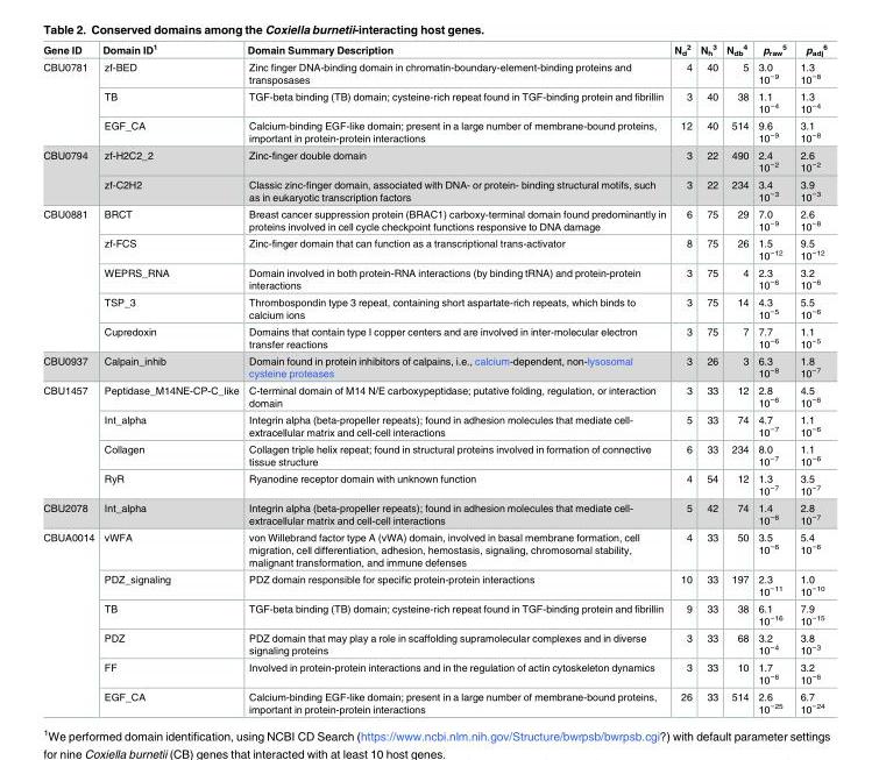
<table><thead><tr><td>Gene ID</td><td>Domain ID<sup>1</sup></td><td>Domain Summary Description</td><td>N<sub>d</sub> <sup>2</sup></td><td>N<sub>h</sub> <sup>3</sup></td><td>N<sub>db</sub> <sup>4</sup></td><td>p<sub>raw</sub> <sup>5</sup></td><td>p<sub>adj</sub> <sup>6</sup></td></tr></thead><tbody><tr><td rowspan="3">CBU0781</td><td>zf-BED</td><td>Zinc finger DNA-binding domain in chromatin-boundary-element-binding proteins and transposases</td><td>4</td><td>40</td><td>5</td><td>3.0 10<sup>−9</sup></td><td>1.3 10<sup>−8</sup></td></tr><tr><td>TB</td><td>TGF-beta binding (TB) domain; cysteine-rich repeat found in TGF-binding protein and fibrillin</td><td>3</td><td>40</td><td>38</td><td>1.1 10<sup>−4</sup></td><td>1.3 10<sup>−4</sup></td></tr><tr><td>EGF_CA</td><td>Calcium-binding EGF-like domain; present in a large number of membrane-bound proteins, important in protein-protein interactions</td><td>12</td><td>40</td><td>514</td><td>9.6 10<sup>−9</sup></td><td>3.1 10<sup>−8</sup></td></tr><tr><td rowspan="2">CBU0794</td><td>zf-H2C2_2</td><td>Zinc-finger double domain</td><td>3</td><td>22</td><td>490</td><td>2.4 10<sup>−2</sup></td><td>2.6 10<sup>−2</sup></td></tr><tr><td>zf-C2H2</td><td>Classic zinc-finger domain, associated with DNA- or protein- binding structural motifs, such as in eukaryotic transcription factors</td><td>3</td><td>22</td><td>234</td><td>3.4 10<sup>−3</sup></td><td>3.9 10<sup>−3</sup></td></tr><tr><td rowspan="5">CBU0881</td><td>BRCT</td><td>Breast cancer suppression protein (BRAC1) carboxy-terminal domain found predominantly in proteins involved in cell cycle checkpoint functions responsive to DNA damage</td><td>6</td><td>75</td><td>29</td><td>7.0 10<sup>−9</sup></td><td>2.6 10<sup>−8</sup></td></tr><tr><td>zf-FCS</td><td>Zinc-finger domain that can function as a transcriptional trans-activator</td><td>8</td><td>75</td><td>26</td><td>1.5 10<sup>−12</sup></td><td>9.5 10<sup>−12</sup></td></tr><tr><td>WEPRS_RNA</td><td>Domain involved in both protein-RNA interactions (by binding tRNA) and protein-protein interactions</td><td>3</td><td>75</td><td>4</td><td>2.3 10<sup>−6</sup></td><td>3.2 10<sup>−6</sup></td></tr><tr><td>TSP_3</td><td>Thrombospondin type 3 repeat, containing short aspartate-rich repeats, which binds to calcium ions</td><td>3</td><td>75</td><td>14</td><td>4.3 10<sup>−5</sup></td><td>5.5 10<sup>−6</sup></td></tr><tr><td>Cupredoxin</td><td>Domains that contain type I copper centers and are involved in inter-molecular electron transfer reactions</td><td>3</td><td>75</td><td>7</td><td>7.7 10<sup>−6</sup></td><td>1.1 10<sup>−5</sup></td></tr><tr><td>CBU0937</td><td>Calpain_inhib</td><td>Domain found in protein inhibitors of calpains, i.e., calcium-dependent, non-lysosomal cysteine proteases</td><td>3</td><td>26</td><td>3</td><td>6.3 10<sup>−8</sup></td><td>1.8 10<sup>−7</sup></td></tr><tr><td rowspan="4">CBU1457</td><td>Peptidase_M14NE-CP-C_like</td><td>C-terminal domain of M14 N/E carboxypeptidase; putative folding, regulation, or interaction domain</td><td>3</td><td>33</td><td>12</td><td>2.8 10<sup>−6</sup></td><td>4.5 10<sup>−6</sup></td></tr><tr><td>Int_alpha</td><td>Integrin alpha (beta-propeller repeats); found in adhesion molecules that mediate cell- extracellular matrix and cell-cell interactions</td><td>5</td><td>33</td><td>74</td><td>4.7 10<sup>−7</sup></td><td>1.1 10<sup>−6</sup></td></tr><tr><td>Collagen</td><td>Collagen triple helix repeat; found in structural proteins involved in formation of connective tissue structure</td><td>6</td><td>33</td><td>234</td><td>8.0 10<sup>−7</sup></td><td>1.1 10<sup>−6</sup></td></tr><tr><td>RyR</td><td>Ryanodine receptor domain with unknown function</td><td>4</td><td>54</td><td>12</td><td>1.3 10<sup>−7</sup></td><td>3.5 10<sup>−7</sup></td></tr><tr><td>CBU2078</td><td>Int_alpha</td><td>Integrin alpha (beta-propeller repeats); found in adhesion molecules that mediate cell- extracellular matrix and cell-cell interactions</td><td>5</td><td>42</td><td>74</td><td>1.4 10<sup>−6</sup></td><td>2.8 10<sup>−7</sup></td></tr><tr><td rowspan="6">CBUA0014</td><td>vWFA</td><td>von Willebrand factor type A (vWA) domain, involved in basal membrane formation, cell migration, cell differentiation, adhesion, hemostasis, signaling, chromosomal stability, malignant transformation, and immune defenses</td><td>4</td><td>33</td><td>50</td><td>3.5 10<sup>−6</sup></td><td>5.4 10<sup>−6</sup></td></tr><tr><td>PDZ_signaling</td><td>PDZ domain responsible for specific protein-protein interactions</td><td>10</td><td>33</td><td>197</td><td>2.3 10<sup>−11</sup></td><td>1.0 10<sup>−10</sup></td></tr><tr><td>TB</td><td>TGF-beta binding (TB) domain; cysteine-rich repeat found in TGF-binding protein and fibrillin</td><td>9</td><td>33</td><td>38</td><td>6.1 10<sup>−16</sup></td><td>7.9 10<sup>−15</sup></td></tr><tr><td>PDZ</td><td>PDZ domain that may play a role in scaffolding supramolecular complexes and in diverse signaling proteins</td><td>3</td><td>33</td><td>68</td><td>3.2 10<sup>−4</sup></td><td>3.8 10<sup>−3</sup></td></tr><tr><td>FF</td><td>Involved in protein-protein interactions and in the regulation of actin cytoskeleton dynamics</td><td>3</td><td>33</td><td>10</td><td>1.7 10<sup>−6</sup></td><td>3.2 10<sup>−6</sup></td></tr><tr><td>EGF_CA</td><td>Calcium-binding EGF-like domain; present in a large number of membrane-bound proteins, important in protein-protein interactions</td><td>26</td><td>33</td><td>514</td><td>2.6 10<sup>−25</sup></td><td>6.7 10<sup>−24</sup></td></tr></tbody></table>